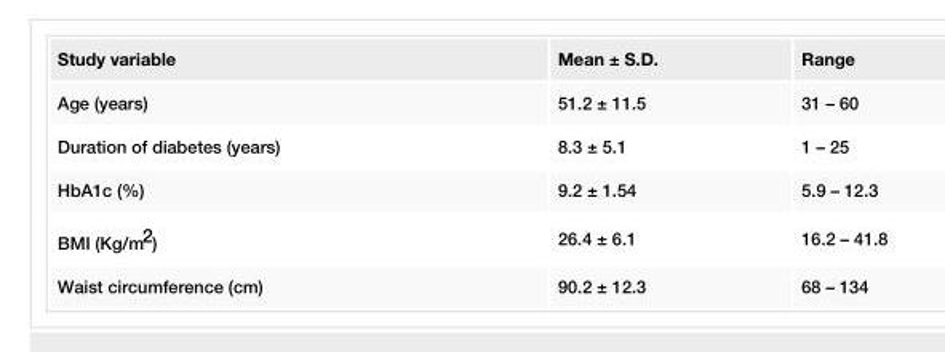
<table><tbody><tr><td>Study variable</td><td>Mean ± S.D.</td><td>Range</td></tr><tr><td>Age (years)</td><td>51.2 ± 11.5</td><td>31 – 60</td></tr><tr><td>Duration of diabetes (years)</td><td>8.3 ± 5.1</td><td>1 – 25</td></tr><tr><td>HbA1c (%)</td><td>9.2 ± 1.54</td><td>5.9 – 12.3</td></tr><tr><td>BMI (Kg/m<sup>2</sup>)</td><td>26.4 ± 6.1</td><td>16.2 – 41.8</td></tr><tr><td>Waist circumference (cm)</td><td>90.2 ± 12.3</td><td>68 – 134</td></tr></tbody></table>